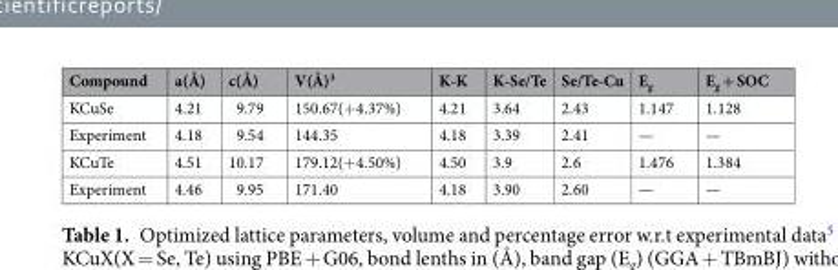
<table><thead><tr><td>Compound</td><td>a(Å)</td><td>c(Å)</td><td>V(Å)<sup>3</sup></td><td>K-K</td><td>K-Se/Te</td><td>Se/Te-Cu</td><td>E<sub>g</sub></td><td>E<sub>g</sub> + SOC</td></tr></thead><tbody><tr><td>KCuSe</td><td>4.21</td><td>9.79</td><td>150.67(+4.37%)</td><td>4.21</td><td>3.64</td><td>2.43</td><td>1.147</td><td>1.128</td></tr><tr><td>Experiment</td><td>4.18</td><td>9.54</td><td>144.35</td><td>4.18</td><td>3.39</td><td>2.41</td><td>—</td><td>—</td></tr><tr><td>KCuTe</td><td>4.51</td><td>10.17</td><td>179.12(+4.50%)</td><td>4.50</td><td>3.9</td><td>2.6</td><td>1.476</td><td>1.384</td></tr><tr><td>Experiment</td><td>4.46</td><td>9.95</td><td>171.40</td><td>4.18</td><td>3.90</td><td>2.60</td><td>—</td><td>—</td></tr></tbody></table>